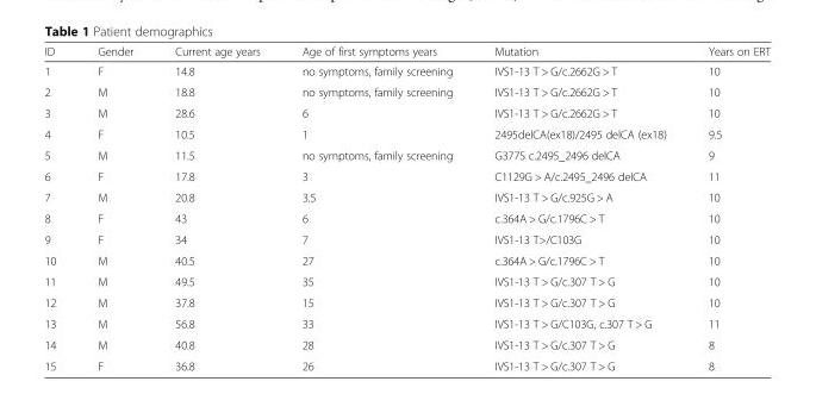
<table><thead><tr><td>ID</td><td>Gender</td><td>Current age years</td><td>Age of first symptoms years</td><td>Mutation</td><td>Years on ERT</td></tr></thead><tbody><tr><td>1</td><td>F</td><td>14.8</td><td>no symptoms, family screening</td><td>IVS1-13 T &gt; G/c.2662G &gt; T</td><td>10</td></tr><tr><td>2</td><td>M</td><td>18.8</td><td>no symptoms, family screening</td><td>IVS1-13 T &gt; G/c.2662G &gt; T</td><td>10</td></tr><tr><td>3</td><td>M</td><td>28.6</td><td>6</td><td>IVS1-13 T &gt; G/c.2662G &gt; T</td><td>10</td></tr><tr><td>4</td><td>F</td><td>10.5</td><td>1</td><td>2495delCA(ex18)/2495 delCA (ex18)</td><td>9.5</td></tr><tr><td>5</td><td>M</td><td>11.5</td><td>no symptoms, family screening</td><td>G377S c.2495_2496 delCA</td><td>9</td></tr><tr><td>6</td><td>F</td><td>17.8</td><td>3</td><td>C1129G &gt; A/c.2495_2496 delCA</td><td>11</td></tr><tr><td>7</td><td>M</td><td>20.8</td><td>3.5</td><td>IVS1-13 T &gt; G/c.925G &gt; A</td><td>10</td></tr><tr><td>8</td><td>F</td><td>43</td><td>6</td><td>c.364A &gt; G/c.1796C &gt; T</td><td>10</td></tr><tr><td>9</td><td>F</td><td>34</td><td>7</td><td>IVS1-13 T&gt;/C103G</td><td>10</td></tr><tr><td>10</td><td>M</td><td>40.5</td><td>27</td><td>c.364A &gt; G/c.1796C &gt; T</td><td>10</td></tr><tr><td>11</td><td>M</td><td>49.5</td><td>35</td><td>IVS1-13 T &gt; G/c.307 T &gt; G</td><td>10</td></tr><tr><td>12</td><td>M</td><td>37.8</td><td>15</td><td>IVS1-13 T &gt; G/c.307 T &gt; G</td><td>10</td></tr><tr><td>13</td><td>M</td><td>56.8</td><td>33</td><td>IVS1-13 T &gt; G/C103G, c.307 T &gt; G</td><td>11</td></tr><tr><td>14</td><td>M</td><td>40.8</td><td>28</td><td>IVS1-13 T &gt; G/c.307 T &gt; G</td><td>8</td></tr><tr><td>15</td><td>F</td><td>36.8</td><td>26</td><td>IVS1-13 T &gt; G/c.307 T &gt; G</td><td>8</td></tr></tbody></table>